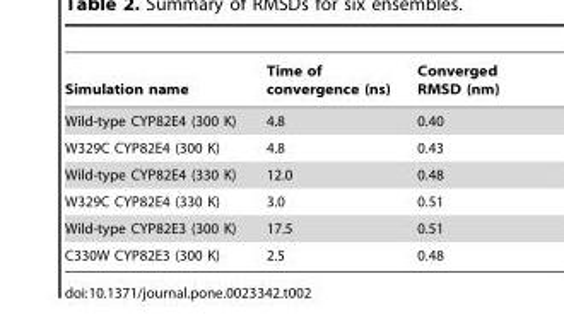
<table><thead><tr><td>Simulation name</td><td>Time of convergence (ns)</td><td>Converged RMSD (nm)</td></tr></thead><tbody><tr><td>Wild-type CYP82E4 (300 K)</td><td>4.8</td><td>0.40</td></tr><tr><td>W329C CYP82E4 (300 K)</td><td>4.8</td><td>0.43</td></tr><tr><td>Wild-type CYP82E4 (330 K)</td><td>12.0</td><td>0.48</td></tr><tr><td>W329C CYP82E4 (330 K)</td><td>3.0</td><td>0.51</td></tr><tr><td>Wild-type CYP82E3 (300 K)</td><td>17.5</td><td>0.51</td></tr><tr><td>C330W CYP82E3 (300 K)</td><td>2.5</td><td>0.48</td></tr></tbody></table>